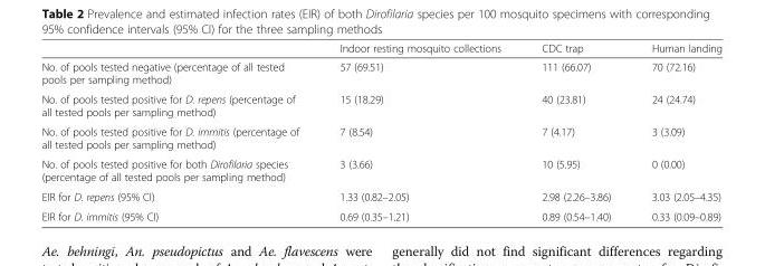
<table><thead><tr><td></td><td>Indoor resting mosquito collections</td><td>CDC trap</td><td>Human landing</td></tr></thead><tbody><tr><td>No. of pools tested negative (percentage of all tested pools per sampling method)</td><td>57 (69.51)</td><td>111 (66.07)</td><td>70 (72.16)</td></tr><tr><td>No. of pools tested positive for D. repens (percentage of all tested pools per sampling method)</td><td>15 (18.29)</td><td>40 (23.81)</td><td>24 (24.74)</td></tr><tr><td>No. of pools tested positive for D. immitis (percentage of all tested pools per sampling method)</td><td>7 (8.54)</td><td>7 (4.17)</td><td>3 (3.09)</td></tr><tr><td>No. of pools tested positive for both Dirofilaria species (percentage of all tested pools per sampling method)</td><td>3 (3.66)</td><td>10 (5.95)</td><td>0 (0.00)</td></tr><tr><td>EIR for D. repens (95% CI)</td><td>1.33 (0.82–2.05)</td><td>2.98 (2.26–3.86)</td><td>3.03 (2.05–4.35)</td></tr><tr><td>EIR for D. immitis (95% CI)</td><td>0.69 (0.35–1.21)</td><td>0.89 (0.54–1.40)</td><td>0.33 (0.09–0.89)</td></tr></tbody></table>